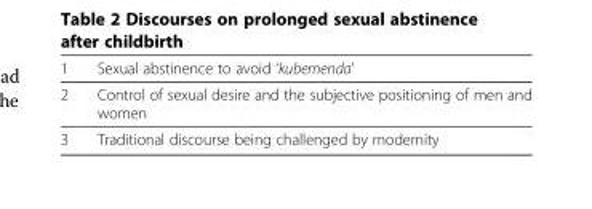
<table><tbody><tr><td>1</td><td>Sexual abstinence to avoid ‘kubemenda’</td></tr><tr><td>2</td><td>Control of sexual desire and the subjective positioning of men and women</td></tr><tr><td>3</td><td>Traditional discourse being challenged by modernity</td></tr></tbody></table>